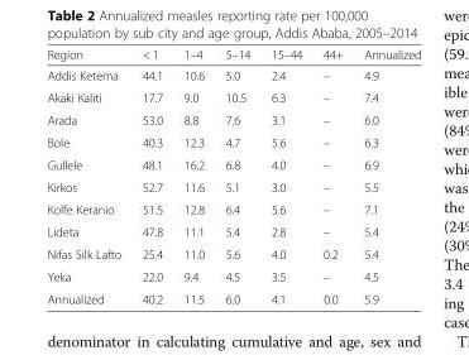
<table><thead><tr><td>Region</td><td>&lt; 1</td><td>1–4</td><td>5–14</td><td>15–44</td><td>44+</td><td>Annualized</td></tr></thead><tbody><tr><td>Addis Ketema</td><td>44.1</td><td>10.6</td><td>5.0</td><td>2.4</td><td>–</td><td>4.9</td></tr><tr><td>Akaki Kaliti</td><td>17.7</td><td>9.0</td><td>10.5</td><td>6.3</td><td>–</td><td>7.4</td></tr><tr><td>Arada</td><td>53.0</td><td>8.8</td><td>7.6</td><td>3.1</td><td>–</td><td>6.0</td></tr><tr><td>Bole</td><td>40.3</td><td>12.3</td><td>4.7</td><td>5.6</td><td>–</td><td>6.3</td></tr><tr><td>Gullele</td><td>48.1</td><td>16.2</td><td>6.8</td><td>4.0</td><td>–</td><td>6.9</td></tr><tr><td>Kirkos</td><td>52.7</td><td>11.6</td><td>5.1</td><td>3.0</td><td>–</td><td>5.5</td></tr><tr><td>Kolfe Keranio</td><td>51.5</td><td>12.8</td><td>6.4</td><td>5.6</td><td>–</td><td>7.1</td></tr><tr><td>Lideta</td><td>47.8</td><td>11.1</td><td>5.4</td><td>2.8</td><td>–</td><td>5.4</td></tr><tr><td>Nifas Silk Lafto</td><td>25.4</td><td>11.0</td><td>5.6</td><td>4.0</td><td>0.2</td><td>5.4</td></tr><tr><td>Yeka</td><td>22.0</td><td>9.4</td><td>4.5</td><td>3.5</td><td>–</td><td>4.5</td></tr><tr><td>Annualized</td><td>40.2</td><td>11.5</td><td>6.0</td><td>4.1</td><td>0.0</td><td>5.9</td></tr></tbody></table>